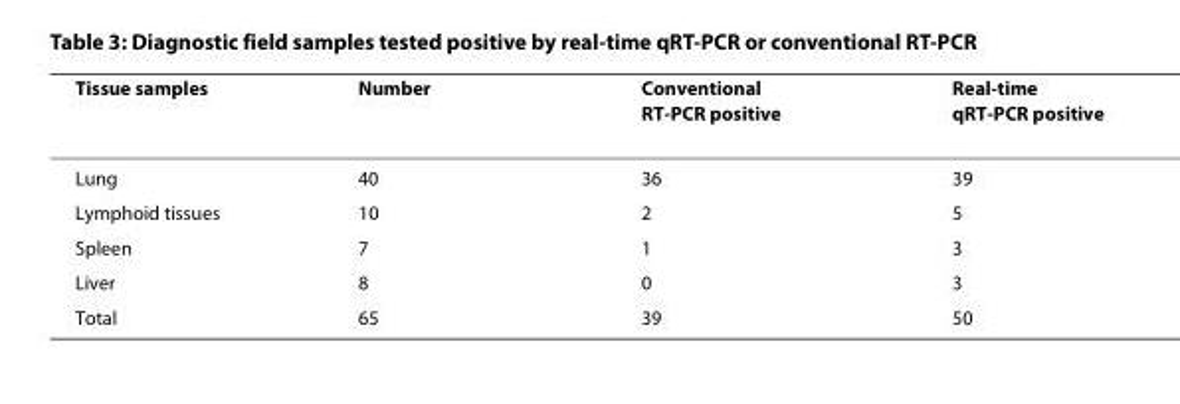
<table><thead><tr><td>Tissue samples</td><td>Number</td><td>Conventional RT-PCR positive</td><td>Real-time qRT-PCR positive</td></tr></thead><tbody><tr><td>Lung</td><td>40</td><td>36</td><td>39</td></tr><tr><td>Lymphoid tissues</td><td>10</td><td>2</td><td>5</td></tr><tr><td>Spleen</td><td>7</td><td>1</td><td>3</td></tr><tr><td>Liver</td><td>8</td><td>0</td><td>3</td></tr><tr><td>Total</td><td>65</td><td>39</td><td>50</td></tr></tbody></table>